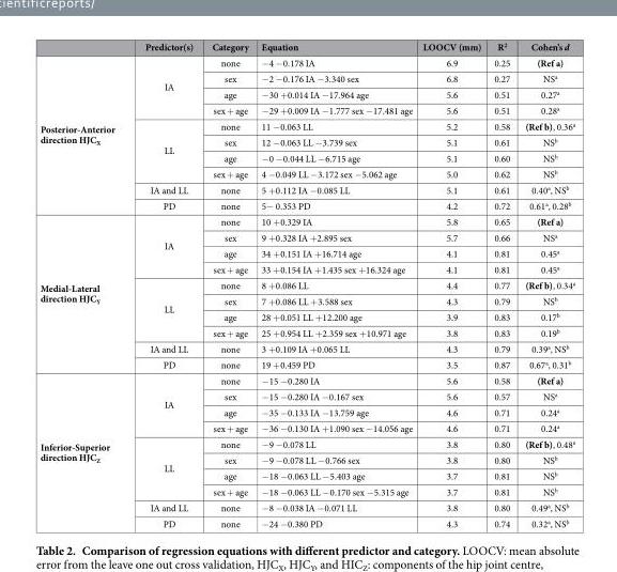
<table><thead><tr><td></td><td>Predictor(s)</td><td>Category</td><td>Equation</td><td>LOOCV (mm)</td><td>R<sup>2</sup></td><td>Cohen’s d</td></tr></thead><tbody><tr><td rowspan="10">Posterior-Anterior direction HJC<sub>X</sub></td><td rowspan="4">IA</td><td>none</td><td>− 4 − 0.178 IA</td><td>6.9</td><td>0.25</td><td>(Ref a)</td></tr><tr><td>sex</td><td>− 2 − 0.176 IA − 3.340 sex</td><td>6.8</td><td>0.27</td><td>NS<sup>a</sup></td></tr><tr><td>age</td><td>− 30 + 0.014 IA − 17.964 age</td><td>5.6</td><td>0.51</td><td>0.27<sup>a</sup></td></tr><tr><td>sex + age</td><td>− 29 + 0.009 IA − 1.777 sex − 17.481 age</td><td>5.6</td><td>0.51</td><td>0.28<sup>a</sup></td></tr><tr><td rowspan="4">LL</td><td>none</td><td>11 − 0.063 LL</td><td>5.2</td><td>0.58</td><td>(Ref b), 0.36<sup>a</sup></td></tr><tr><td>sex</td><td>12 − 0.063 LL − 3.739 sex</td><td>5.1</td><td>0.61</td><td>NS<sup>b</sup></td></tr><tr><td>age</td><td>− 0 − 0.044 LL − 6.715 age</td><td>5.1</td><td>0.60</td><td>NS<sup>b</sup></td></tr><tr><td>sex + age</td><td>4 − 0.049 LL − 3.172 sex − 5.062 age</td><td>5.0</td><td>0.62</td><td>NS<sup>b</sup></td></tr><tr><td>IA and LL</td><td>none</td><td>5 + 0.112 IA − 0.085 LL</td><td>5.1</td><td>0.61</td><td>0.40<sup>a</sup>, NS<sup>b</sup></td></tr><tr><td>PD</td><td>none</td><td>5− 0.353 PD</td><td>4.2</td><td>0.72</td><td>0.61<sup>a</sup>, 0.28<sup>b</sup></td></tr><tr><td rowspan="10">Medial-Lateral direction HJC<sub>Y</sub></td><td rowspan="4">IA</td><td>none</td><td>10 + 0.329 IA</td><td>5.8</td><td>0.65</td><td>(Ref a)</td></tr><tr><td>sex</td><td>9 + 0.328 IA + 2.895 sex</td><td>5.7</td><td>0.66</td><td>NS<sup>a</sup></td></tr><tr><td>age</td><td>34 + 0.151 IA + 16.714 age</td><td>4.1</td><td>0.81</td><td>0.45<sup>a</sup></td></tr><tr><td>sex + age</td><td>33 + 0.154 IA + 1.435 sex + 16.324 age</td><td>4.1</td><td>0.81</td><td>0.45<sup>a</sup></td></tr><tr><td rowspan="4">LL</td><td>none</td><td>8 + 0.086 LL</td><td>4.4</td><td>0.77</td><td>(Ref b), 0.34<sup>a</sup></td></tr><tr><td>sex</td><td>7 + 0.086 LL + 3.588 sex</td><td>4.3</td><td>0.79</td><td>NS<sup>b</sup></td></tr><tr><td>age</td><td>28 + 0.051 LL + 12.200 age</td><td>3.9</td><td>0.83</td><td>0.17<sup>b</sup></td></tr><tr><td>sex + age</td><td>25 + 0.954 LL + 2.359 sex + 10.971 age</td><td>3.8</td><td>0.83</td><td>0.19<sup>b</sup></td></tr><tr><td>IA and LL</td><td>none</td><td>3 + 0.109 IA + 0.065 LL</td><td>4.3</td><td>0.79</td><td>0.39<sup>a</sup>, NS<sup>b</sup></td></tr><tr><td>PD</td><td>none</td><td>19 + 0.459 PD</td><td>3.5</td><td>0.87</td><td>0.67<sup>a</sup>, 0.31<sup>b</sup></td></tr><tr><td rowspan="10">Inferior-Superior direction HJC<sub>Z</sub></td><td rowspan="4">IA</td><td>none</td><td>− 15 − 0.280 IA</td><td>5.6</td><td>0.58</td><td>(Ref a)</td></tr><tr><td>sex</td><td>− 15 − 0.280 IA − 0.167 sex</td><td>5.6</td><td>0.57</td><td>NS<sup>a</sup></td></tr><tr><td>age</td><td>− 35 − 0.133 IA − 13.759 age</td><td>4.6</td><td>0.71</td><td>0.24<sup>a</sup></td></tr><tr><td>sex + age</td><td>− 36 − 0.130 IA + 1.090 sex − 14.056 age</td><td>4.6</td><td>0.71</td><td>0.24<sup>a</sup></td></tr><tr><td rowspan="4">LL</td><td>none</td><td>− 9 − 0.078 LL</td><td>3.8</td><td>0.80</td><td>(Ref b), 0.48<sup>a</sup></td></tr><tr><td>sex</td><td>− 9 − 0.078 LL − 0.766 sex</td><td>3.8</td><td>0.80</td><td>NS<sup>b</sup></td></tr><tr><td>age</td><td>− 18 − 0.063 LL − 5.403 age</td><td>3.7</td><td>0.81</td><td>NS<sup>b</sup></td></tr><tr><td>sex + age</td><td>− 18 − 0.063 LL − 0.170 sex − 5.315 age</td><td>3.7</td><td>0.81</td><td>NS<sup>b</sup></td></tr><tr><td>IA and LL</td><td>none</td><td>− 8 − 0.038 IA − 0.071 LL</td><td>3.8</td><td>0.80</td><td>0.49<sup>a</sup>, NS<sup>b</sup></td></tr><tr><td>PD</td><td>none</td><td>− 24 − 0.380 PD</td><td>4.3</td><td>0.74</td><td>0.32<sup>a</sup>, NS<sup>b</sup></td></tr></tbody></table>